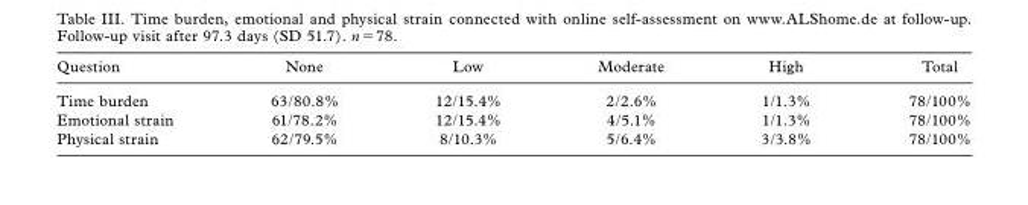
<table><thead><tr><td>Question</td><td>None</td><td>Low</td><td>Moderate</td><td>High</td><td>Total</td></tr></thead><tbody><tr><td>Time burden</td><td>63/80.8%</td><td>12/15.4%</td><td>2/2.6%</td><td>1/1.3%</td><td>78/100%</td></tr><tr><td>Emotional strain</td><td>61/78.2%</td><td>12/15.4%</td><td>4/5.1%</td><td>1/1.3%</td><td>78/100%</td></tr><tr><td>Physical strain</td><td>62/79.5%</td><td>8/10.3%</td><td>5/6.4%</td><td>3/3.8%</td><td>78/100%</td></tr></tbody></table>